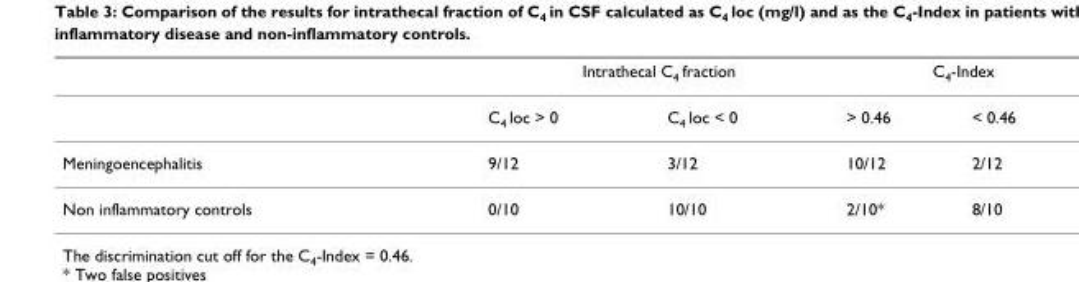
<table><thead><tr><td rowspan="2"></td><td colspan="2">Intrathecal C<sub>4</sub> fraction</td><td colspan="2">C<sub>4</sub>-Index</td></tr><tr><td>C<sub>4</sub> loc &gt; 0</td><td>C<sub>4</sub> loc &lt; 0</td><td>&gt; 0.46</td><td>&lt; 0.46</td></tr></thead><tbody><tr><td>Meningoencephalitis</td><td>9/12</td><td>3/12</td><td>10/12</td><td>2/12</td></tr><tr><td>Non inflammatory controls</td><td>0/10</td><td>10/10</td><td>2/10*</td><td>8/10</td></tr></tbody></table>